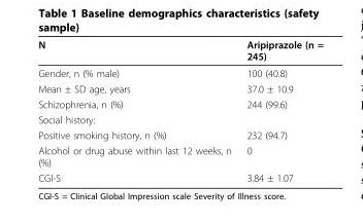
<table><thead><tr><td>N</td><td>Aripiprazole (n = 245)</td></tr></thead><tbody><tr><td>Gender, n (% male)</td><td>100 (40.8)</td></tr><tr><td>Mean ± SD age, years</td><td>37.0 ± 10.9</td></tr><tr><td>Schizophrenia, n (%)</td><td>244 (99.6)</td></tr><tr><td colspan="2">Social history:</td></tr><tr><td>Positive smoking history, n (%)</td><td>232 (94.7)</td></tr><tr><td>Alcohol or drug abuse within last 12 weeks, n (%)</td><td>0</td></tr><tr><td>CGI-S</td><td>3.84 ± 1.07</td></tr></tbody></table>